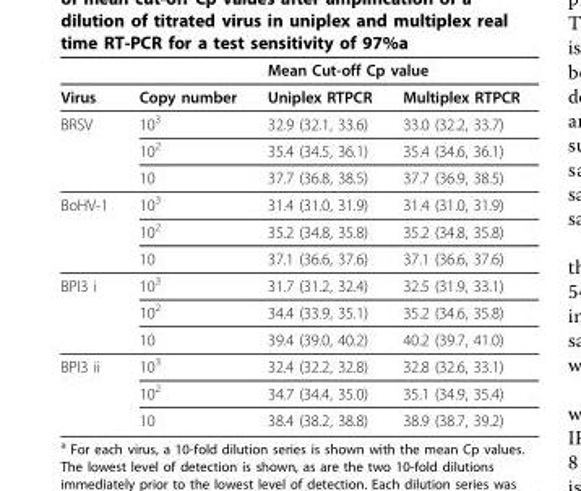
<table><thead><tr><td rowspan="2">Virus</td><td rowspan="2">Copy number</td><td colspan="2">Mean Cut-off Cp value</td></tr><tr><td>Uniplex RTPCR</td><td>Multiplex RTPCR</td></tr></thead><tbody><tr><td rowspan="3">BRSV</td><td>10<sup>3</sup></td><td>32.9 (32.1, 33.6)</td><td>33.0 (32.2, 33.7)</td></tr><tr><td>10<sup>2</sup></td><td>35.4 (34.5, 36.1)</td><td>35.4 (34.6, 36.1)</td></tr><tr><td>10</td><td>37.7 (36.8, 38.5)</td><td>37.7 (36.9, 38.5)</td></tr><tr><td rowspan="3">BoHV-1</td><td>10<sup>3</sup></td><td>31.4 (31.0, 31.9)</td><td>31.4 (31.0, 31.9)</td></tr><tr><td>10<sup>2</sup></td><td>35.2 (34.8, 35.8)</td><td>35.2 (34.8, 35.8)</td></tr><tr><td>10</td><td>37.1 (36.6, 37.6)</td><td>37.1 (36.6, 37.6)</td></tr><tr><td rowspan="3">BPI3 i</td><td>10<sup>3</sup></td><td>31.7 (31.2, 32.4)</td><td>32.5 (31.9, 33.1)</td></tr><tr><td>10<sup>2</sup></td><td>34.4 (33.9, 35.1)</td><td>35.2 (34.6, 35.8)</td></tr><tr><td>10</td><td>39.4 (39.0, 40.2)</td><td>40.2 (39.7, 41.0)</td></tr><tr><td rowspan="3">BPI3 ii</td><td>10<sup>3</sup></td><td>32.4 (32.2, 32.8)</td><td>32.8 (32.6, 33.1)</td></tr><tr><td>10<sup>2</sup></td><td>34.7 (34.4, 35.0)</td><td>35.1 (34.9, 35.4)</td></tr><tr><td>10</td><td>38.4 (38.2, 38.8)</td><td>38.9 (38.7, 39.2)</td></tr></tbody></table>